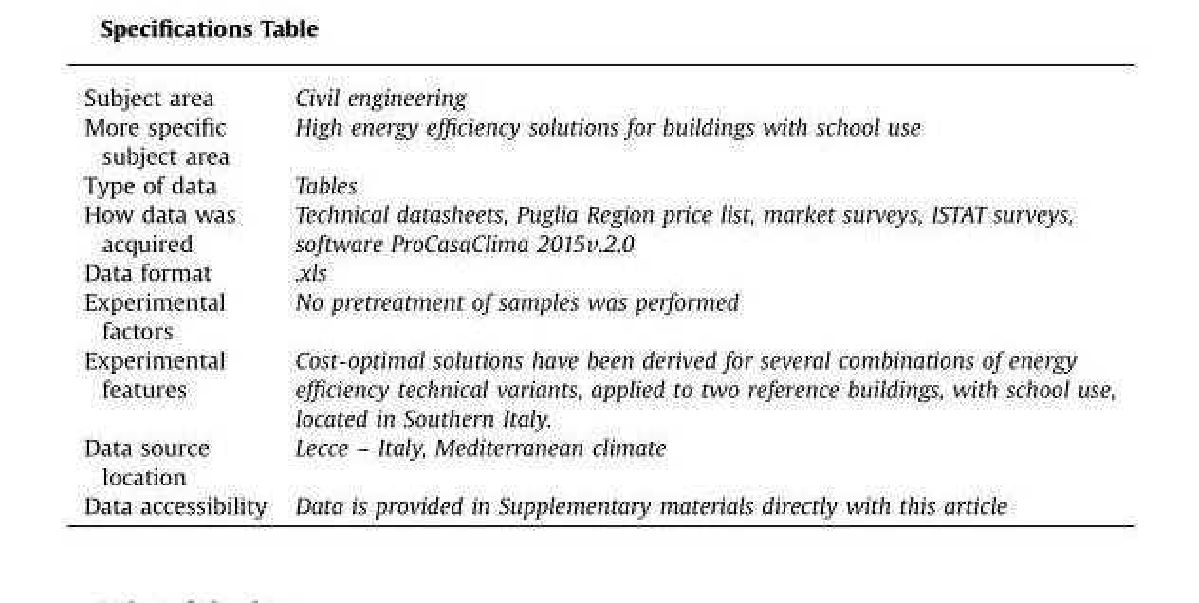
<table><tbody><tr><td>Subject area</td><td>Civil engineering</td></tr><tr><td>More specific subject area</td><td>High energy efficiency solutions for buildings with school use</td></tr><tr><td>Type of data</td><td>Tables</td></tr><tr><td>How data was acquired</td><td>Technical datasheets, Puglia Region price list, market surveys, ISTAT surveys, software ProCasaClima 2015v.2.0</td></tr><tr><td>Data format</td><td>.xls</td></tr><tr><td>Experimental factors</td><td>No pretreatment of samples was performed</td></tr><tr><td>Experimental features</td><td>Cost-optimal solutions have been derived for several combinations of energy efficiency technical variants, applied to two reference buildings, with school use, located in Southern Italy.</td></tr><tr><td>Data source location</td><td>Lecce – Italy, Mediterranean climate</td></tr><tr><td>Data accessibility</td><td>Data is provided in Supplementary materials directly with this article</td></tr></tbody></table>